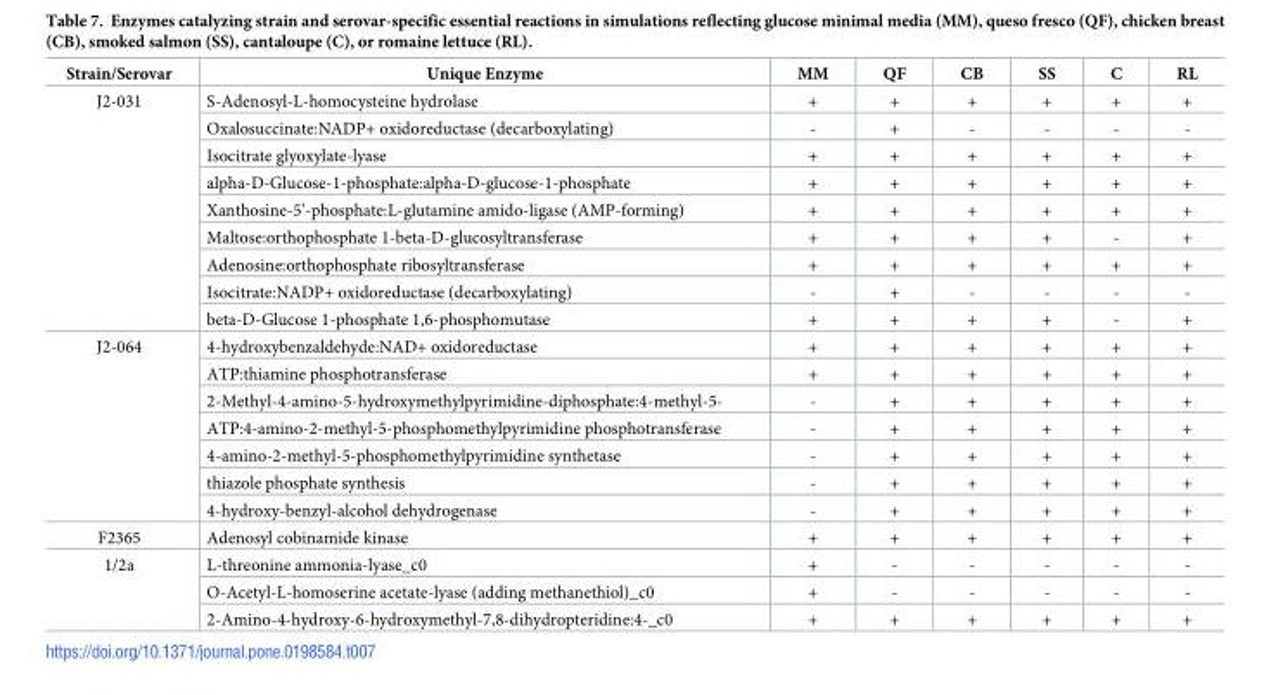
<table><thead><tr><td>Strain/Serovar</td><td>Unique Enzyme</td><td>MM</td><td>QF</td><td>CB</td><td>SS</td><td>C</td><td>RL</td></tr></thead><tbody><tr><td rowspan="9">J2-031</td><td>S-Adenosyl-L-homocysteine hydrolase</td><td>+</td><td>+</td><td>+</td><td>+</td><td>+</td><td>+</td></tr><tr><td>Oxalosuccinate:NADP+ oxidoreductase (decarboxylating)</td><td>-</td><td>+</td><td>-</td><td>-</td><td>-</td><td>-</td></tr><tr><td>Isocitrate glyoxylate-lyase</td><td>+</td><td>+</td><td>+</td><td>+</td><td>+</td><td>+</td></tr><tr><td>alpha-D-Glucose-1-phosphate:alpha-D-glucose-1-phosphate</td><td>+</td><td>+</td><td>+</td><td>+</td><td>+</td><td>+</td></tr><tr><td>Xanthosine-5’-phosphate:L-glutamine amido-ligase (AMP-forming)</td><td>+</td><td>+</td><td>+</td><td>+</td><td>+</td><td>+</td></tr><tr><td>Maltose:orthophosphate 1-beta-D-glucosyltransferase</td><td>+</td><td>+</td><td>+</td><td>+</td><td>-</td><td>+</td></tr><tr><td>Adenosine:orthophosphate ribosyltransferase</td><td>+</td><td>+</td><td>+</td><td>+</td><td>+</td><td>+</td></tr><tr><td>Isocitrate:NADP+ oxidoreductase (decarboxylating)</td><td>-</td><td>+</td><td>-</td><td>-</td><td>-</td><td>-</td></tr><tr><td>beta-D-Glucose 1-phosphate 1,6-phosphomutase</td><td>+</td><td>+</td><td>+</td><td>+</td><td>-</td><td>+</td></tr><tr><td rowspan="7">J2-064</td><td>4-hydroxybenzaldehyde:NAD+ oxidoreductase</td><td>+</td><td>+</td><td>+</td><td>+</td><td>+</td><td>+</td></tr><tr><td>ATP:thiamine phosphotransferase</td><td>+</td><td>+</td><td>+</td><td>+</td><td>+</td><td>+</td></tr><tr><td>2-Methyl-4-amino-5-hydroxymethylpyrimidine-diphosphate:4-methyl-5-</td><td>-</td><td>+</td><td>+</td><td>+</td><td>+</td><td>+</td></tr><tr><td>ATP:4-amino-2-methyl-5-phosphomethylpyrimidine phosphotransferase</td><td>-</td><td>+</td><td>+</td><td>+</td><td>+</td><td>+</td></tr><tr><td>4-amino-2-methyl-5-phosphomethylpyrimidine synthetase</td><td>-</td><td>+</td><td>+</td><td>+</td><td>+</td><td>+</td></tr><tr><td>thiazole phosphate synthesis</td><td>-</td><td>+</td><td>+</td><td>+</td><td>+</td><td>+</td></tr><tr><td>4-hydroxy-benzyl-alcohol dehydrogenase</td><td>-</td><td>+</td><td>+</td><td>+</td><td>+</td><td>+</td></tr><tr><td>F2365</td><td>Adenosyl cobinamide kinase</td><td>+</td><td>+</td><td>+</td><td>+</td><td>+</td><td>+</td></tr><tr><td rowspan="3">1/2a</td><td>L-threonine ammonia-lyase_c0</td><td>+</td><td>-</td><td>-</td><td>-</td><td>-</td><td>-</td></tr><tr><td>O-Acetyl-L-homoserine acetate-lyase (adding methanethiol)_c0</td><td>+</td><td>-</td><td>-</td><td>-</td><td>-</td><td>-</td></tr><tr><td>2-Amino-4-hydroxy-6-hydroxymethyl-7,8-dihydropteridine:4-_c0</td><td>+</td><td>+</td><td>+</td><td>+</td><td>+</td><td>+</td></tr></tbody></table>